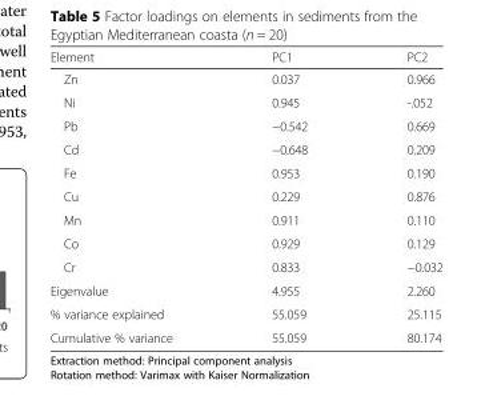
<table><thead><tr><td>Element</td><td>PC1</td><td>PC2</td></tr></thead><tbody><tr><td>Zn</td><td>0.037</td><td>0.966</td></tr><tr><td>Ni</td><td>0.945</td><td>-.052</td></tr><tr><td>Pb</td><td>−0.542</td><td>0.669</td></tr><tr><td>Cd</td><td>−0.648</td><td>0.209</td></tr><tr><td>Fe</td><td>0.953</td><td>0.190</td></tr><tr><td>Cu</td><td>0.229</td><td>0.876</td></tr><tr><td>Mn</td><td>0.911</td><td>0.110</td></tr><tr><td>Co</td><td>0.929</td><td>0.129</td></tr><tr><td>Cr</td><td>0.833</td><td>−0.032</td></tr><tr><td>Eigenvalue</td><td>4.955</td><td>2.260</td></tr><tr><td>% variance explained</td><td>55.059</td><td>25.115</td></tr><tr><td>Cumulative % variance</td><td>55.059</td><td>80.174</td></tr></tbody></table>